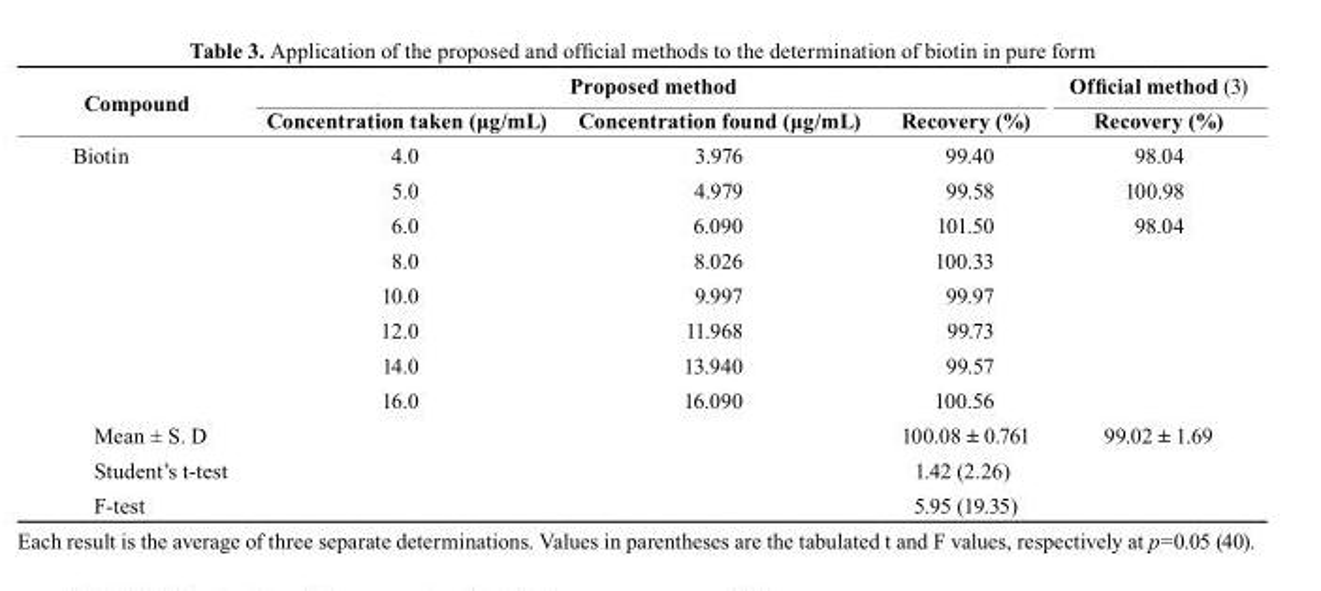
<table><thead><tr><td rowspan="2">compound</td><td colspan="3">proposed method</td><td rowspan="2">Official method (3) recovery (%)</td></tr><tr><td>concentration taken (μg/mL)</td><td>concentration found (μg/mL)</td><td>recovery (%)</td></tr></thead><tbody><tr><td rowspan="8">Biotin</td><td>4.0</td><td>3.976</td><td>99.40</td><td>98.04</td></tr><tr><td>5.0</td><td>4.979</td><td>99.58</td><td>100.98</td></tr><tr><td>6.0</td><td>6.090</td><td>101.50</td><td>98.04</td></tr><tr><td>8.0</td><td>8.026</td><td>100.33</td><td></td></tr><tr><td>10.0</td><td>9.997</td><td>99.97</td><td></td></tr><tr><td>12.0</td><td>11.968</td><td>99.73</td><td></td></tr><tr><td>14.0</td><td>13.940</td><td>99.57</td><td></td></tr><tr><td>16.0</td><td>16.090</td><td>100.56</td><td></td></tr><tr><td>Mean ± S. D</td><td></td><td></td><td>100.08 ± 0.761</td><td>99.02 ± 1.69</td></tr><tr><td>Student’s t-test</td><td></td><td></td><td>1.42 (2.26)</td><td></td></tr><tr><td>F-test</td><td></td><td></td><td>5.95 (19.35)</td><td></td></tr></tbody></table>